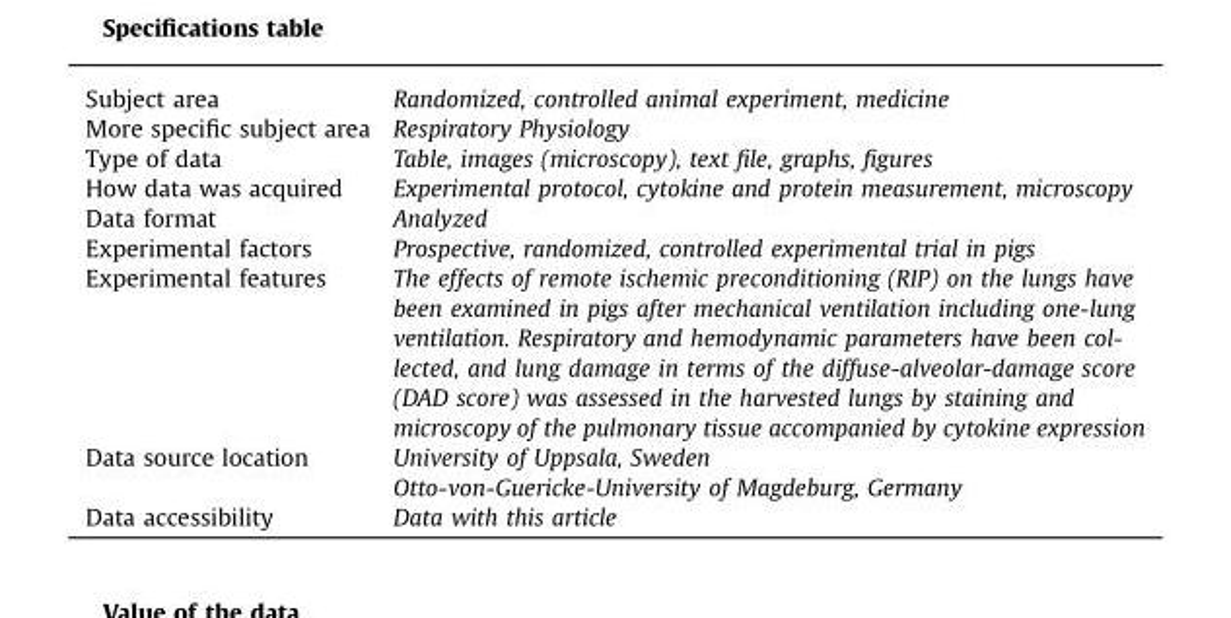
<table><tbody><tr><td>Subject area</td><td>Randomized, controlled animal experiment, medicine</td></tr><tr><td>More specific subject area</td><td>Respiratory Physiology</td></tr><tr><td>Type of data</td><td>Table, images (microscopy), text file, graphs, figures</td></tr><tr><td>How data was acquired</td><td>Experimental protocol, cytokine and protein measurement, microscopy</td></tr><tr><td>Data format</td><td>Analyzed</td></tr><tr><td>Experimental factors</td><td>Prospective, randomized, controlled experimental trial in pigs</td></tr><tr><td>Experimental features</td><td>The effects of remote ischemic preconditioning (RIP) on the lungs have been examined in pigs after mechanical ventilation including one-lung ventilation. Respiratory and hemodynamic parameters have been col- lected, and lung damage in terms of the diffuse-alveolar-damage score (DAD score) was assessed in the harvested lungs by staining and microscopy of the pulmonary tissue accompanied by cytokine expression</td></tr><tr><td rowspan="2">Data source location</td><td>University of Uppsala, Sweden</td></tr><tr><td>Otto-von-Guericke-University of Magdeburg, Germany</td></tr><tr><td>Data accessibility</td><td>Data with this article</td></tr></tbody></table>